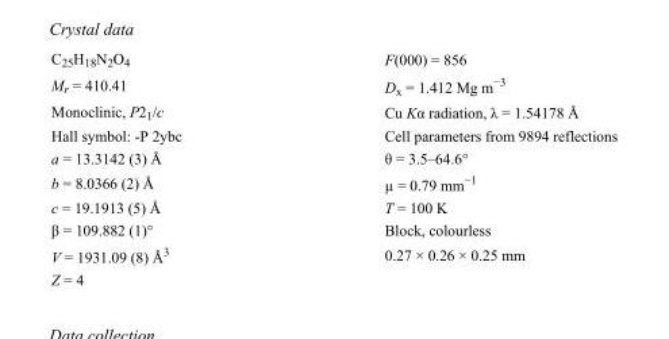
<table><tbody><tr><td>C<sub>25</sub>H<sub>18</sub>N<sub>2</sub>O<sub>4</sub></td><td>F(000) = 856</td></tr><tr><td>M<sub>r</sub> = 410.41</td><td>D<sub>x</sub> = 1.412 Mg m<sup>−3</sup></td></tr><tr><td>Monoclinic, P2<sub>1</sub>/c</td><td>Cu Kα radiation, λ = 1.54178 Å</td></tr><tr><td>Hall symbol: -P 2ybc</td><td>Cell parameters from 9894 reflections</td></tr><tr><td>a = 13.3142 (3) Å</td><td>θ = 3.5–64.6°</td></tr><tr><td>b = 8.0366 (2) Å</td><td>µ = 0.79 mm<sup>−1</sup></td></tr><tr><td>c = 19.1913 (5) Å</td><td>T = 100 K</td></tr><tr><td>β = 109.882 (1)°</td><td>Block, colourless</td></tr><tr><td>V = 1931.09 (8) Å<sup>3</sup></td><td>0.27 × 0.26 × 0.25 mm</td></tr><tr><td>Z = 4</td><td></td></tr></tbody></table>